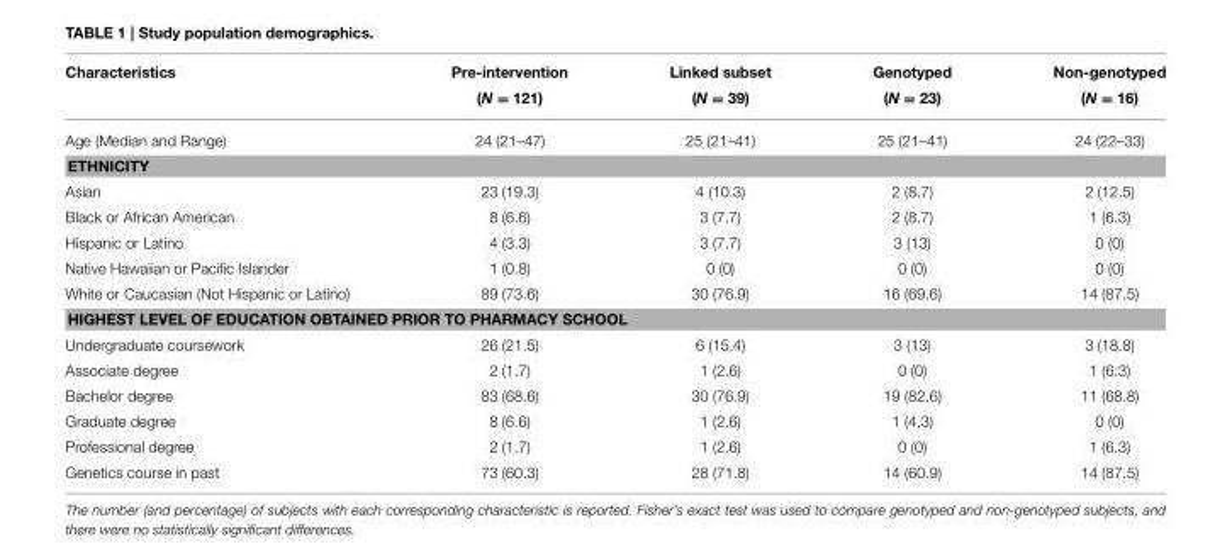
<table><thead><tr><td>Characteristics</td><td>Pre-intervention (N = 121)</td><td>Linked subset (N = 39)</td><td>Genotyped (N = 23)</td><td>Non-genotyped (N = 16)</td></tr></thead><tbody><tr><td>Age (Median and Range)</td><td>24 (21–47)</td><td>25 (21–41)</td><td>25 (21–41)</td><td>24 (22–33)</td></tr><tr><td colspan="5">ETHNICITY</td></tr><tr><td>Asian</td><td>23 (19.3)</td><td>4 (10.3)</td><td>2 (8.7)</td><td>2 (12.5)</td></tr><tr><td>Black or African American</td><td>8 (6.6)</td><td>3 (7.7)</td><td>2 (8.7)</td><td>1 (6.3)</td></tr><tr><td>Hispanic or Latino</td><td>4 (3.3)</td><td>3 (7.7)</td><td>3 (13)</td><td>0 (0)</td></tr><tr><td>Native Hawaiian or Pacific Islander</td><td>1 (0.8)</td><td>0 (0)</td><td>0 (0)</td><td>0 (0)</td></tr><tr><td>White or Caucasian (Not Hispanic or Latino)</td><td>89 (73.6)</td><td>30 (76.9)</td><td>16 (69.6)</td><td>14 (87.5)</td></tr><tr><td colspan="5">HIGHEST LEVEL OF EDUCATION OBTAINED PRIOR TO PHARMACY SCHOOL</td></tr><tr><td>Undergraduate coursework</td><td>26 (21.5)</td><td>6 (15.4)</td><td>3 (13)</td><td>3 (18.8)</td></tr><tr><td>Associate degree</td><td>2 (1.7)</td><td>1 (2.6)</td><td>0 (0)</td><td>1 (6.3)</td></tr><tr><td>Bachelor degree</td><td>83 (68.6)</td><td>30 (76.9)</td><td>19 (82.6)</td><td>11 (68.8)</td></tr><tr><td>Graduate degree</td><td>8 (6.6)</td><td>1 (2.6)</td><td>1 (4.3)</td><td>0 (0)</td></tr><tr><td>Professional degree</td><td>2 (1.7)</td><td>1 (2.6)</td><td>0 (0)</td><td>1 (6.3)</td></tr><tr><td>Genetics course in past</td><td>73 (60.3)</td><td>28 (71.8)</td><td>14 (60.9)</td><td>14 (87.5)</td></tr></tbody></table>